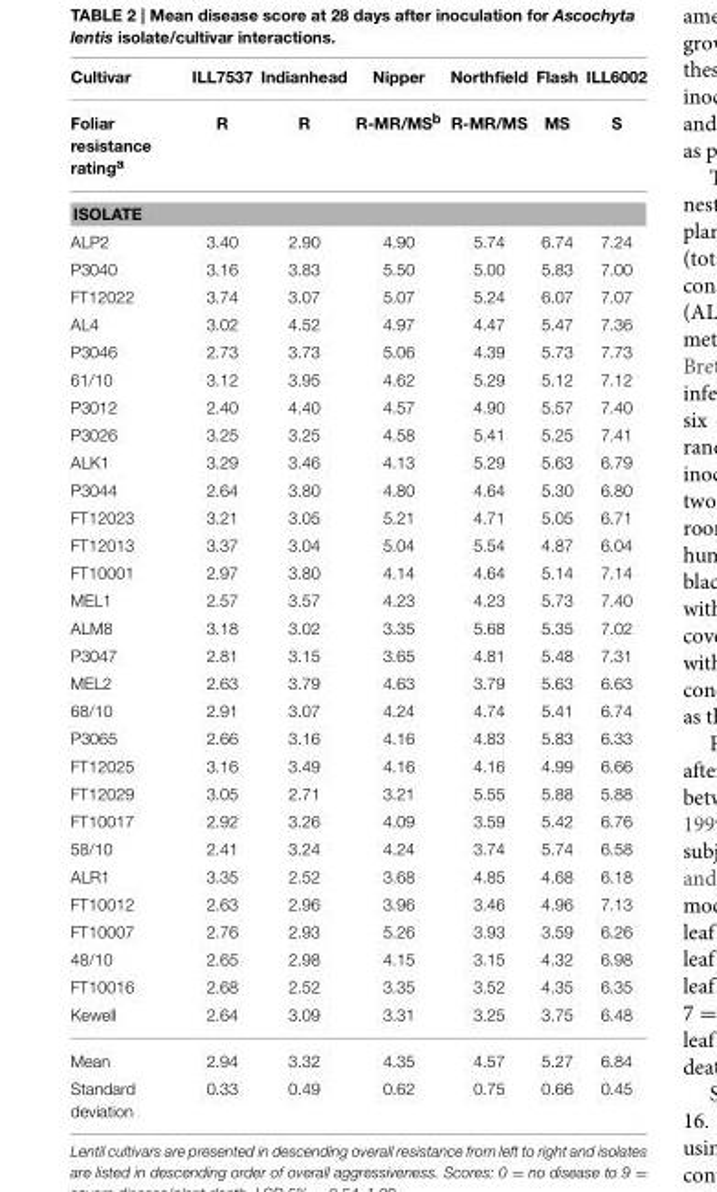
<table><thead><tr><td>Cultivar</td><td>ILL7537</td><td>Indianhead</td><td>Nipper</td><td>Northfield</td><td>Flash</td><td>ILL6002</td></tr></thead><tbody><tr><td>Foliar resistance rating<sup>a</sup></td><td>R</td><td>R</td><td>R-MR/MS<sup>b</sup></td><td>R-MR/MS</td><td>MS</td><td>S</td></tr><tr><td colspan="7">ISOLATE</td></tr><tr><td>ALP2</td><td>3.40</td><td>2.90</td><td>4.90</td><td>5.74</td><td>6.74</td><td>7.24</td></tr><tr><td>P3040</td><td>3.16</td><td>3.83</td><td>5.50</td><td>5.00</td><td>5.83</td><td>7.00</td></tr><tr><td>FT12022</td><td>3.74</td><td>3.07</td><td>5.07</td><td>5.24</td><td>6.07</td><td>7.07</td></tr><tr><td>AL4</td><td>3.02</td><td>4.52</td><td>4.97</td><td>4.47</td><td>5.47</td><td>7.36</td></tr><tr><td>P3046</td><td>2.73</td><td>3.73</td><td>5.06</td><td>4.39</td><td>5.73</td><td>7.73</td></tr><tr><td>61/10</td><td>3.12</td><td>3.95</td><td>4.62</td><td>5.29</td><td>5.12</td><td>7.12</td></tr><tr><td>P3012</td><td>2.40</td><td>4.40</td><td>4.57</td><td>4.90</td><td>5.57</td><td>7.40</td></tr><tr><td>P3026</td><td>3.25</td><td>3.25</td><td>4.58</td><td>5.41</td><td>5.25</td><td>7.41</td></tr><tr><td>ALK1</td><td>3.29</td><td>3.46</td><td>4.13</td><td>5.29</td><td>5.63</td><td>6.79</td></tr><tr><td>P3044</td><td>2.64</td><td>3.80</td><td>4.80</td><td>4.64</td><td>5.30</td><td>6.80</td></tr><tr><td>FT12023</td><td>3.21</td><td>3.05</td><td>5.21</td><td>4.71</td><td>5.05</td><td>6.71</td></tr><tr><td>FT12013</td><td>3.37</td><td>3.04</td><td>5.04</td><td>5.54</td><td>4.87</td><td>6.04</td></tr><tr><td>FT10001</td><td>2.97</td><td>3.80</td><td>4.14</td><td>4.64</td><td>5.14</td><td>7.14</td></tr><tr><td>MEL1</td><td>2.57</td><td>3.57</td><td>4.23</td><td>4.23</td><td>5.73</td><td>7.40</td></tr><tr><td>ALM8</td><td>3.18</td><td>3.02</td><td>3.35</td><td>5.68</td><td>5.35</td><td>7.02</td></tr><tr><td>P3047</td><td>2.81</td><td>3.15</td><td>3.65</td><td>4.81</td><td>5.48</td><td>7.31</td></tr><tr><td>MEL2</td><td>2.63</td><td>3.79</td><td>4.63</td><td>3.79</td><td>5.63</td><td>6.63</td></tr><tr><td>68/10</td><td>2.91</td><td>3.07</td><td>4.24</td><td>4.74</td><td>5.41</td><td>6.74</td></tr><tr><td>P3065</td><td>2.66</td><td>3.16</td><td>4.16</td><td>4.83</td><td>5.83</td><td>6.33</td></tr><tr><td>FT12025</td><td>3.16</td><td>3.49</td><td>4.16</td><td>4.16</td><td>4.99</td><td>6.66</td></tr><tr><td>FT12029</td><td>3.05</td><td>2.71</td><td>3.21</td><td>5.55</td><td>5.88</td><td>5.88</td></tr><tr><td>FT10017</td><td>2.92</td><td>3.26</td><td>4.09</td><td>3.59</td><td>5.42</td><td>6.76</td></tr><tr><td>58/10</td><td>2.41</td><td>3.24</td><td>4.24</td><td>3.74</td><td>5.74</td><td>6.58</td></tr><tr><td>ALR1</td><td>3.35</td><td>2.52</td><td>3.68</td><td>4.85</td><td>4.68</td><td>6.18</td></tr><tr><td>FT10012</td><td>2.63</td><td>2.96</td><td>3.96</td><td>3.46</td><td>4.96</td><td>7.13</td></tr><tr><td>FT10007</td><td>2.76</td><td>2.93</td><td>5.26</td><td>3.93</td><td>3.59</td><td>6.26</td></tr><tr><td>48/10</td><td>2.65</td><td>2.98</td><td>4.15</td><td>3.15</td><td>4.32</td><td>6.98</td></tr><tr><td>FT10016</td><td>2.68</td><td>2.52</td><td>3.35</td><td>3.52</td><td>4.35</td><td>6.35</td></tr><tr><td>Kewell</td><td>2.64</td><td>3.09</td><td>3.31</td><td>3.25</td><td>3.75</td><td>6.48</td></tr><tr><td>Mean</td><td>2.94</td><td>3.32</td><td>4.35</td><td>4.57</td><td>5.27</td><td>6.84</td></tr><tr><td>Standard deviation</td><td>0.33</td><td>0.49</td><td>0.62</td><td>0.75</td><td>0.66</td><td>0.45</td></tr></tbody></table>